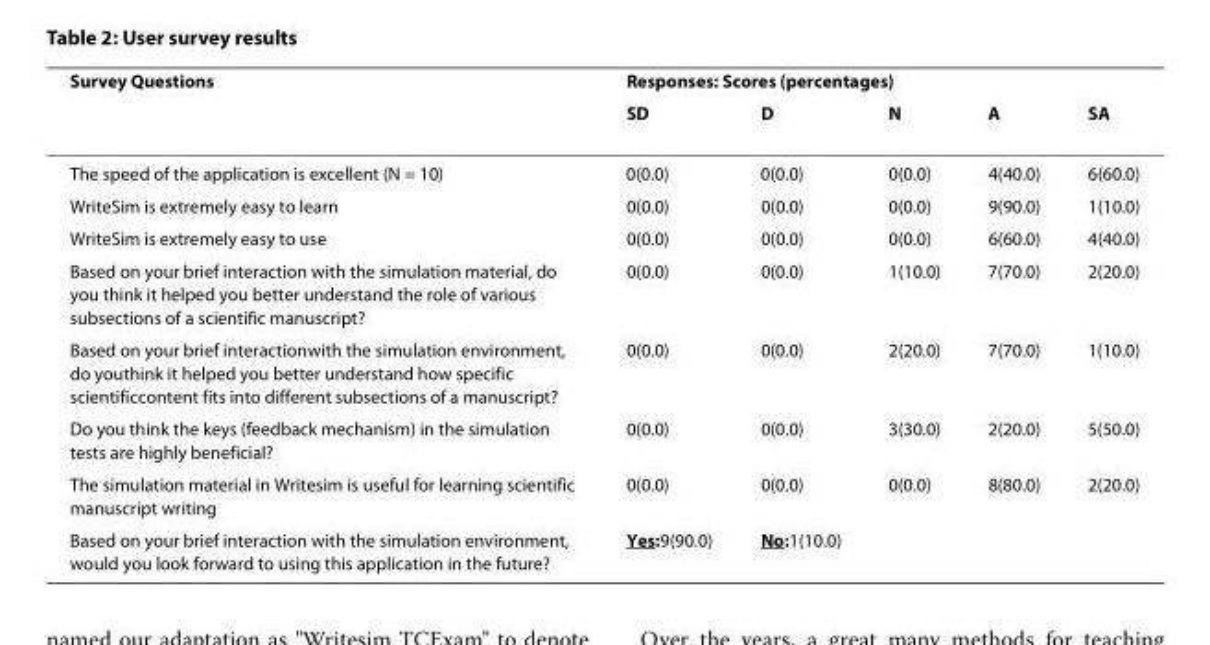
<table><thead><tr><td rowspan="2">Survey Questions</td><td colspan="5">Responses: Scores (percentages)</td></tr><tr><td>SD</td><td>D</td><td>N</td><td>A</td><td>SA</td></tr></thead><tbody><tr><td>The speed of the application is excellent (N = 10)</td><td>0(0.0)</td><td>0(0.0)</td><td>0(0.0)</td><td>4(40.0)</td><td>6(60.0)</td></tr><tr><td>WriteSim is extremely easy to learn</td><td>0(0.0)</td><td>0(0.0)</td><td>0(0.0)</td><td>9(90.0)</td><td>1(10.0)</td></tr><tr><td>WriteSim is extremely easy to use</td><td>0(0.0)</td><td>0(0.0)</td><td>0(0.0)</td><td>6(60.0)</td><td>4(40.0)</td></tr><tr><td>Based on your brief interaction with the simulation material, do you think it helped you better understand the role of various subsections of a scientific manuscript?</td><td>0(0.0)</td><td>0(0.0)</td><td>1(10.0)</td><td>7(70.0)</td><td>2(20.0)</td></tr><tr><td>Based on your brief interactionwith the simulation environment, do youthink it helped you better understand how specific scientificcontent fits into different subsections of a manuscript?</td><td>0(0.0)</td><td>0(0.0)</td><td>2(20.0)</td><td>7(70.0)</td><td>1(10.0)</td></tr><tr><td>Do you think the keys (feedback mechanism) in the simulation tests are highly beneficial?</td><td>0(0.0)</td><td>0(0.0)</td><td>3(30.0)</td><td>2(20.0)</td><td>5(50.0)</td></tr><tr><td>The simulation material in Writesim is useful for learning scientific manuscript writing</td><td>0(0.0)</td><td>0(0.0)</td><td>0(0.0)</td><td>8(80.0)</td><td>2(20.0)</td></tr><tr><td>Based on your brief interaction with the simulation environment, would you look forward to using this application in the future?</td><td>Yes:9(90.0)</td><td>No:1(10.0)</td><td></td><td></td><td></td></tr></tbody></table>